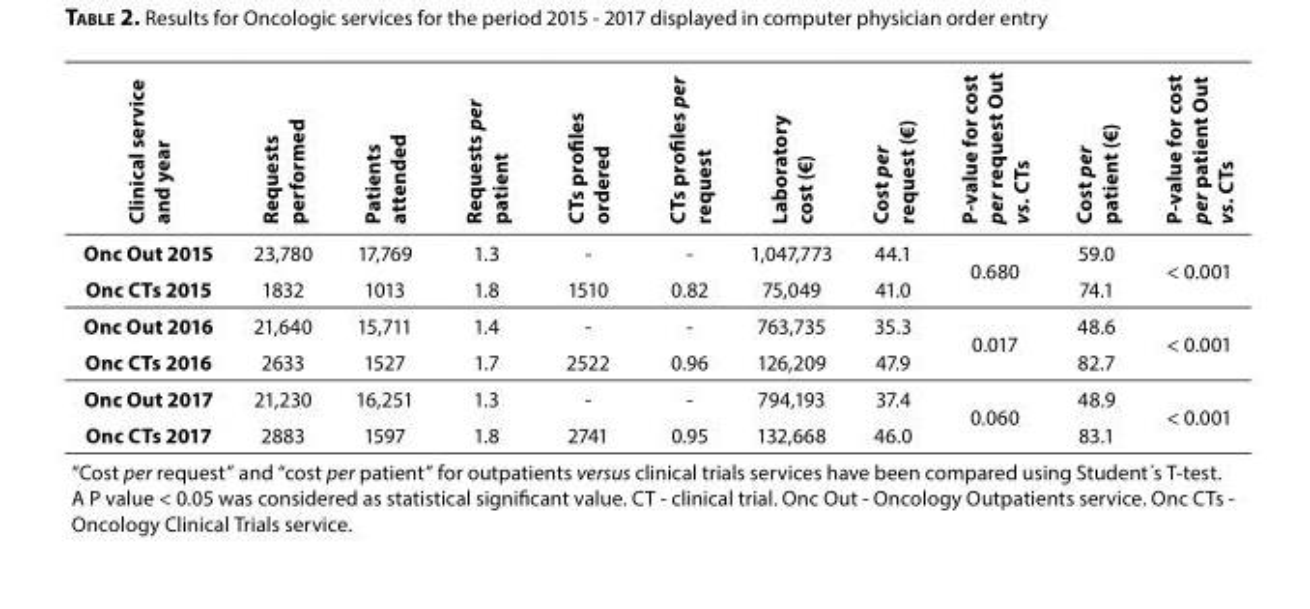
<table><thead><tr><td>Clinical service and year</td><td>Requests performed</td><td>Patients attended</td><td>Requests per patient</td><td>CTs profiles ordered</td><td>CTs profiles per request</td><td>Laboratory cost (€)</td><td>Cost per request (€)</td><td>P-value for cost per request Out vs. CTs</td><td>Cost per patient (€)</td><td>P-value for cost per patient Out vs. CTs</td></tr></thead><tbody><tr><td>Onc Out 2015</td><td>23,780</td><td>17,769</td><td>1.3</td><td>-</td><td>-</td><td>1,047,773</td><td>44.1</td><td rowspan="2">0.680</td><td>59.0</td><td rowspan="2">&lt; 0.001</td></tr><tr><td>Onc CTs 2015</td><td>1832</td><td>1013</td><td>1.8</td><td>1510</td><td>0.82</td><td>75,049</td><td>41.0</td><td>74.1</td></tr><tr><td>Onc Out 2016</td><td>21,640</td><td>15,711</td><td>1.4</td><td>-</td><td>-</td><td>763,735</td><td>35.3</td><td rowspan="2">0.017</td><td>48.6</td><td rowspan="2">&lt; 0.001</td></tr><tr><td>Onc CTs 2016</td><td>2633</td><td>1527</td><td>1.7</td><td>2522</td><td>0.96</td><td>126,209</td><td>47.9</td><td>82.7</td></tr><tr><td>Onc Out 2017</td><td>21,230</td><td>16,251</td><td>1.3</td><td>-</td><td>-</td><td>794,193</td><td>37.4</td><td rowspan="2">0.060</td><td>48.9</td><td rowspan="2">&lt; 0.001</td></tr><tr><td>Onc CTs 2017</td><td>2883</td><td>1597</td><td>1.8</td><td>2741</td><td>0.95</td><td>132,668</td><td>46.0</td><td>83.1</td></tr><tr><td colspan="11">“Cost per request” and “cost per patient” for outpatients versus clinical trials services have been compared using Student´s T-test. A P value &lt; 0.05 was considered as statistical significant value. CT - clinical trial. Onc Out - Oncology Outpatients service. Onc CTs - Oncology Clinical Trials service.</td></tr></tbody></table>